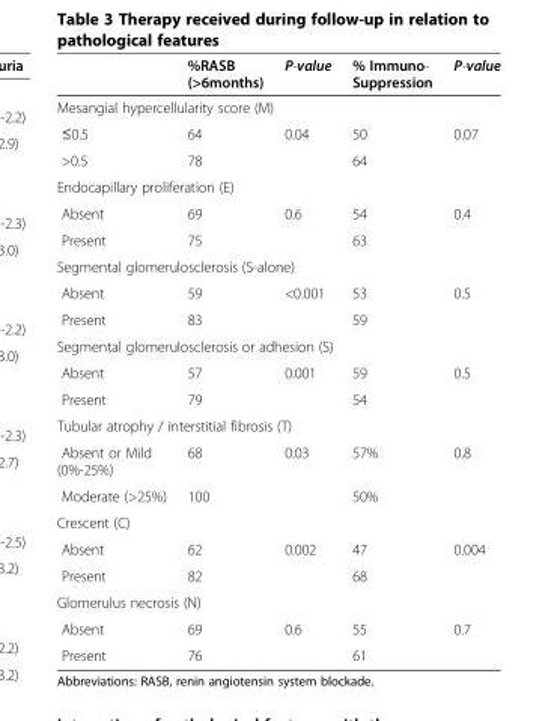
<table><thead><tr><td></td><td>%RASB (&gt;6months)</td><td>P-value</td><td>% Immuno- Suppression</td><td>P-value</td></tr></thead><tbody><tr><td colspan="5">Mesangial hypercellularity score (M)</td></tr><tr><td>≤0.5</td><td>64</td><td rowspan="2">0.04</td><td>50</td><td rowspan="2">0.07</td></tr><tr><td>&gt;0.5</td><td>78</td><td>64</td></tr><tr><td colspan="5">Endocapillary proliferation (E)</td></tr><tr><td>Absent</td><td>69</td><td rowspan="2">0.6</td><td>54</td><td rowspan="2">0.4</td></tr><tr><td>Present</td><td>75</td><td>63</td></tr><tr><td colspan="5">Segmental glomerulosclerosis (S-alone)</td></tr><tr><td>Absent</td><td>59</td><td rowspan="2">&lt;0.001</td><td>53</td><td rowspan="2">0.5</td></tr><tr><td>Present</td><td>83</td><td>59</td></tr><tr><td colspan="5">Segmental glomerulosclerosis or adhesion (S)</td></tr><tr><td>Absent</td><td>57</td><td rowspan="2">0.001</td><td>59</td><td rowspan="2">0.5</td></tr><tr><td>Present</td><td>79</td><td>54</td></tr><tr><td colspan="5">Tubular atrophy / interstitial fibrosis (T)</td></tr><tr><td>Absent or Mild (0%-25%)</td><td>68</td><td rowspan="2">0.03</td><td>57%</td><td rowspan="2">0.8</td></tr><tr><td>Moderate (&gt;25%)</td><td>100</td><td>50%</td></tr><tr><td colspan="5">Crescent (C)</td></tr><tr><td>Absent</td><td>62</td><td rowspan="2">0.002</td><td>47</td><td rowspan="2">0.004</td></tr><tr><td>Present</td><td>82</td><td>68</td></tr><tr><td colspan="5">Glomerulus necrosis (N)</td></tr><tr><td>Absent</td><td>69</td><td rowspan="2">0.6</td><td>55</td><td rowspan="2">0.7</td></tr><tr><td>Present</td><td>76</td><td>61</td></tr></tbody></table>